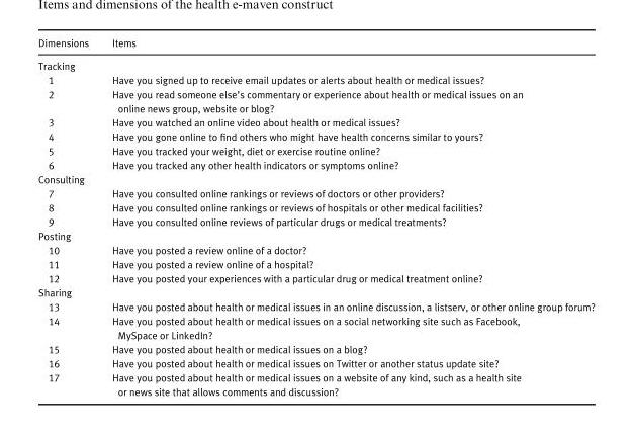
<table><thead><tr><td>Dimensions</td><td>Items</td></tr></thead><tbody><tr><td colspan="2">Tracking</td></tr><tr><td>1</td><td>Have you signed up to receive email updates or alerts about health or medical issues?</td></tr><tr><td>2</td><td>Have you read someone else’s commentary or experience about health or medical issues on an online news group, website or blog?</td></tr><tr><td>3</td><td>Have you watched an online video about health or medical issues?</td></tr><tr><td>4</td><td>Have you gone online to find others who might have health concerns similar to yours?</td></tr><tr><td>5</td><td>Have you tracked your weight, diet or exercise routine online?</td></tr><tr><td>6</td><td>Have you tracked any other health indicators or symptoms online?</td></tr><tr><td colspan="2">Consulting</td></tr><tr><td>7</td><td>Have you consulted online rankings or reviews of doctors or other providers?</td></tr><tr><td>8</td><td>Have you consulted online rankings or reviews of hospitals or other medical facilities?</td></tr><tr><td>9</td><td>Have you consulted online reviews of particular drugs or medical treatments?</td></tr><tr><td colspan="2">Posting</td></tr><tr><td>10</td><td>Have you posted a review online of a doctor?</td></tr><tr><td>11</td><td>Have you posted a review online of a hospital?</td></tr><tr><td>12</td><td>Have you posted your experiences with a particular drug or medical treatment online?</td></tr><tr><td colspan="2">Sharing</td></tr><tr><td>13</td><td>Have you posted about health or medical issues in an online discussion, a listserv, or other online group forum?</td></tr><tr><td>14</td><td>Have you posted about health or medical issues on a social networking site such as Facebook, MySpace or LinkedIn?</td></tr><tr><td>15</td><td>Have you posted about health or medical issues on a blog?</td></tr><tr><td>16</td><td>Have you posted about health or medical issues on Twitter or another status update site?</td></tr><tr><td>17</td><td>Have you posted about health or medical issues on a website of any kind, such as a health site or news site that allows comments and discussion?</td></tr></tbody></table>